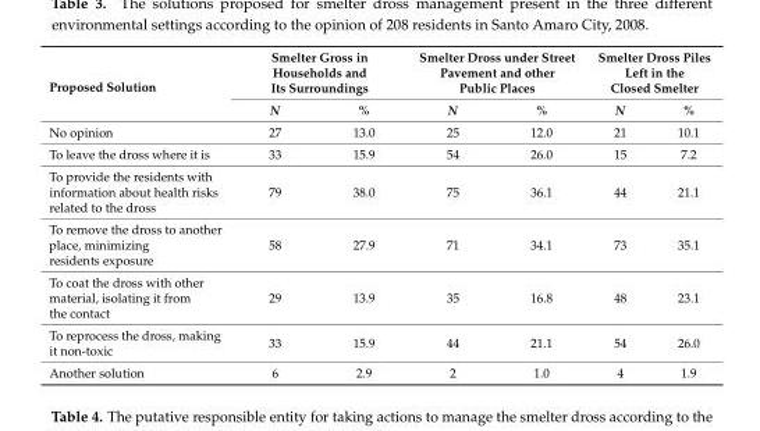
<table><thead><tr><td rowspan="2">Proposed Solution</td><td colspan="2">Smelter Gross in Households and Its Surroundings</td><td colspan="2">Smelter Dross under Street Pavement and other Public Places</td><td colspan="2">Smelter Dross Piles Left in the Closed Smelter</td></tr><tr><td>N</td><td>%</td><td>N</td><td>%</td><td>N</td><td>%</td></tr></thead><tbody><tr><td>No opinion</td><td>27</td><td>13.0</td><td>25</td><td>12.0</td><td>21</td><td>10.1</td></tr><tr><td>To leave the dross where it is</td><td>33</td><td>15.9</td><td>54</td><td>26.0</td><td>15</td><td>7.2</td></tr><tr><td>To provide the residents with information about health risks related to the dross</td><td>79</td><td>38.0</td><td>75</td><td>36.1</td><td>44</td><td>21.1</td></tr><tr><td>To remove the dross to another place, minimizing residents exposure</td><td>58</td><td>27.9</td><td>71</td><td>34.1</td><td>73</td><td>35.1</td></tr><tr><td>To coat the dross with other material, isolating it from the contact</td><td>29</td><td>13.9</td><td>35</td><td>16.8</td><td>48</td><td>23.1</td></tr><tr><td>To reprocess the dross, making it non-toxic</td><td>33</td><td>15.9</td><td>44</td><td>21.1</td><td>54</td><td>26.0</td></tr><tr><td>Another solution</td><td>6</td><td>2.9</td><td>2</td><td>1.0</td><td>4</td><td>1.9</td></tr></tbody></table>